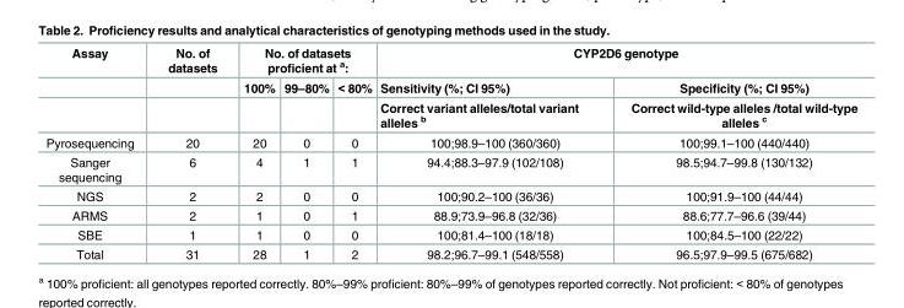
<table><thead><tr><td rowspan="3">Assay</td><td rowspan="3">No. of datasets</td><td colspan="3">No. of datasets proficient at <sup>a</sup>:</td><td colspan="2">CYP2D6 genotype</td></tr><tr><td rowspan="2">100%</td><td rowspan="2">99–80%</td><td rowspan="2">&lt; 80%</td><td rowspan="2">Sensitivity (%; CI 95%) Correct variant alleles/total variant alleles <sup>b</sup></td><td rowspan="2">Specificity (%; CI 95%) Correct wild-type alleles /total wild-type alleles <sup>c</sup></td></tr><tr></tr></thead><tbody><tr><td>Pyrosequencing</td><td>20</td><td>20</td><td>0</td><td>0</td><td>100;98.9–100 (360/360)</td><td>100;99.1–100 (440/440)</td></tr><tr><td>Sanger sequencing</td><td>6</td><td>4</td><td>1</td><td>1</td><td>94.4;88.3–97.9 (102/108)</td><td>98.5;94.7–99.8 (130/132)</td></tr><tr><td>NGS</td><td>2</td><td>2</td><td>0</td><td>0</td><td>100;90.2–100 (36/36)</td><td>100;91.9–100 (44/44)</td></tr><tr><td>ARMS</td><td>2</td><td>1</td><td>0</td><td>1</td><td>88.9;73.9–96.8 (32/36)</td><td>88.6;77.7–96.6 (39/44)</td></tr><tr><td>SBE</td><td>1</td><td>1</td><td>0</td><td>0</td><td>100;81.4–100 (18/18)</td><td>100;84.5–100 (22/22)</td></tr><tr><td>Total</td><td>31</td><td>28</td><td>1</td><td>2</td><td>98.2;96.7–99.1 (548/558)</td><td>96.5;97.9–99.5 (675/682)</td></tr></tbody></table>